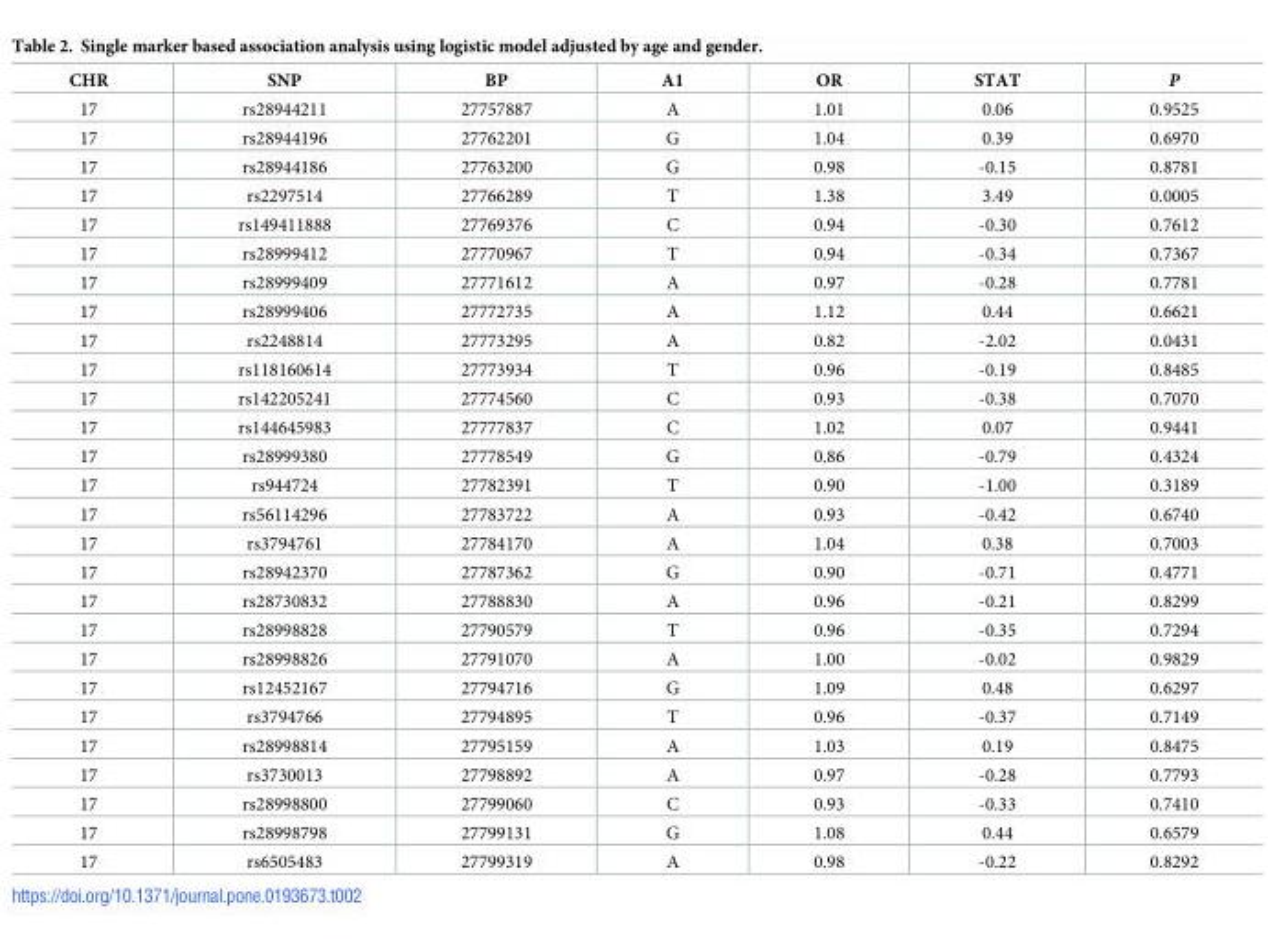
<table><thead><tr><td>CHR</td><td>SNP</td><td>BP</td><td>A1</td><td>OR</td><td>STAT</td><td>P</td></tr></thead><tbody><tr><td>17</td><td>rs28944211</td><td>27757887</td><td>A</td><td>1.01</td><td>0.06</td><td>0.9525</td></tr><tr><td>17</td><td>rs28944196</td><td>27762201</td><td>G</td><td>1.04</td><td>0.39</td><td>0.6970</td></tr><tr><td>17</td><td>rs28944186</td><td>27763200</td><td>G</td><td>0.98</td><td>-0.15</td><td>0.8781</td></tr><tr><td>17</td><td>rs2297514</td><td>27766289</td><td>T</td><td>1.38</td><td>3.49</td><td>0.0005</td></tr><tr><td>17</td><td>rs149411888</td><td>27769376</td><td>C</td><td>0.94</td><td>-0.30</td><td>0.7612</td></tr><tr><td>17</td><td>rs28999412</td><td>27770967</td><td>T</td><td>0.94</td><td>-0.34</td><td>0.7367</td></tr><tr><td>17</td><td>rs28999409</td><td>27771612</td><td>A</td><td>0.97</td><td>-0.28</td><td>0.7781</td></tr><tr><td>17</td><td>rs28999406</td><td>27772735</td><td>A</td><td>1.12</td><td>0.44</td><td>0.6621</td></tr><tr><td>17</td><td>rs2248814</td><td>27773295</td><td>A</td><td>0.82</td><td>-2.02</td><td>0.0431</td></tr><tr><td>17</td><td>rs118160614</td><td>27773934</td><td>T</td><td>0.96</td><td>-0.19</td><td>0.8485</td></tr><tr><td>17</td><td>rs142205241</td><td>27774560</td><td>C</td><td>0.93</td><td>-0.38</td><td>0.7070</td></tr><tr><td>17</td><td>rs144645983</td><td>27777837</td><td>C</td><td>1.02</td><td>0.07</td><td>0.9441</td></tr><tr><td>17</td><td>rs28999380</td><td>27778549</td><td>G</td><td>0.86</td><td>-0.79</td><td>0.4324</td></tr><tr><td>17</td><td>rs944724</td><td>27782391</td><td>T</td><td>0.90</td><td>-1.00</td><td>0.3189</td></tr><tr><td>17</td><td>rs56114296</td><td>27783722</td><td>A</td><td>0.93</td><td>-0.42</td><td>0.6740</td></tr><tr><td>17</td><td>rs3794761</td><td>27784170</td><td>A</td><td>1.04</td><td>0.38</td><td>0.7003</td></tr><tr><td>17</td><td>rs28942370</td><td>27787362</td><td>G</td><td>0.90</td><td>-0.71</td><td>0.4771</td></tr><tr><td>17</td><td>rs28730832</td><td>27788830</td><td>A</td><td>0.96</td><td>-0.21</td><td>0.8299</td></tr><tr><td>17</td><td>rs28998828</td><td>27790579</td><td>T</td><td>0.96</td><td>-0.35</td><td>0.7294</td></tr><tr><td>17</td><td>rs28998826</td><td>27791070</td><td>A</td><td>1.00</td><td>-0.02</td><td>0.9829</td></tr><tr><td>17</td><td>rs12452167</td><td>27794716</td><td>G</td><td>1.09</td><td>0.48</td><td>0.6297</td></tr><tr><td>17</td><td>rs3794766</td><td>27794895</td><td>T</td><td>0.96</td><td>-0.37</td><td>0.7149</td></tr><tr><td>17</td><td>rs28998814</td><td>27795159</td><td>A</td><td>1.03</td><td>0.19</td><td>0.8475</td></tr><tr><td>17</td><td>rs3730013</td><td>27798892</td><td>A</td><td>0.97</td><td>-0.28</td><td>0.7793</td></tr><tr><td>17</td><td>rs28998800</td><td>27799060</td><td>C</td><td>0.93</td><td>-0.33</td><td>0.7410</td></tr><tr><td>17</td><td>rs28998798</td><td>27799131</td><td>G</td><td>1.08</td><td>0.44</td><td>0.6579</td></tr><tr><td>17</td><td>rs6505483</td><td>27799319</td><td>A</td><td>0.98</td><td>-0.22</td><td>0.8292</td></tr></tbody></table>